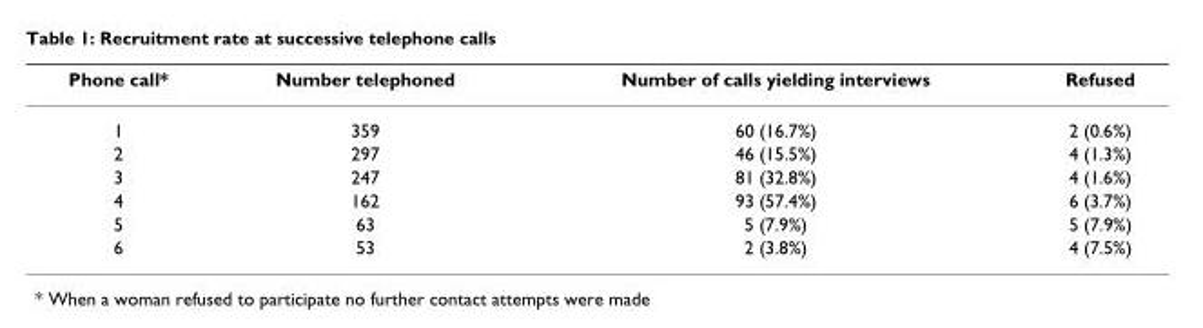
<table><thead><tr><td>Phone call*</td><td>Number telephoned</td><td>Number of calls yielding interviews</td><td>Refused</td></tr></thead><tbody><tr><td>1</td><td>359</td><td>60 (16.7%)</td><td>2 (0.6%)</td></tr><tr><td>2</td><td>297</td><td>46 (15.5%)</td><td>4 (1.3%)</td></tr><tr><td>3</td><td>247</td><td>81 (32.8%)</td><td>4 (1.6%)</td></tr><tr><td>4</td><td>162</td><td>93 (57.4%)</td><td>6 (3.7%)</td></tr><tr><td>5</td><td>63</td><td>5 (7.9%)</td><td>5 (7.9%)</td></tr><tr><td>6</td><td>53</td><td>2 (3.8%)</td><td>4 (7.5%)</td></tr></tbody></table>